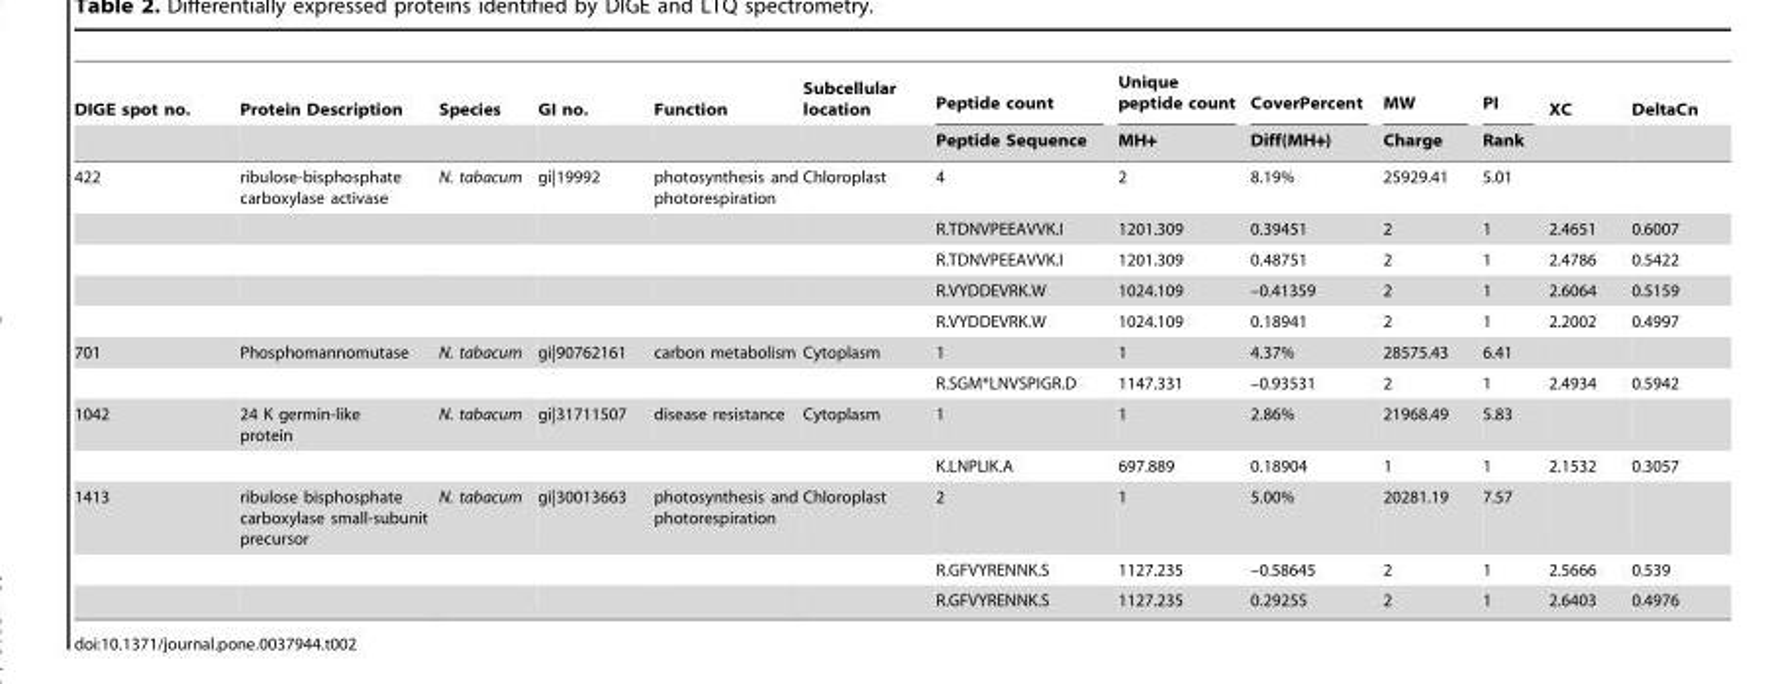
<table><thead><tr><td rowspan="2">DIGE spot no.</td><td rowspan="2">Protein Description</td><td rowspan="2">Species</td><td rowspan="2">GI no.</td><td rowspan="2">Function</td><td rowspan="2">Subcellular location</td><td rowspan="2">Peptide count Peptide Sequence</td><td rowspan="2">Unique peptide count MH+</td><td rowspan="2">CoverPercent Diff(MH+)</td><td rowspan="2">MW Charge</td><td rowspan="2">PI Rank</td><td rowspan="2">XC</td><td rowspan="2">DeltaCn</td></tr><tr></tr></thead><tbody><tr><td rowspan="5">422</td><td>ribulose-bisphosphate carboxylase activase</td><td>N. tabacum</td><td>gi|19992</td><td>photosynthesis and photorespiration</td><td>Chloroplast</td><td>4</td><td>2</td><td>8.19%</td><td>25929.41</td><td>5.01</td><td></td><td></td></tr><tr><td></td><td></td><td></td><td></td><td></td><td>R.TDNVPEEAVVK.I</td><td>1201.309</td><td>0.39451</td><td>2</td><td>1</td><td>2.4651</td><td>0.6007</td></tr><tr><td></td><td></td><td></td><td></td><td></td><td>R.TDNVPEEAVVK.I</td><td>1201.309</td><td>0.48751</td><td>2</td><td>1</td><td>2.4786</td><td>0.5422</td></tr><tr><td></td><td></td><td></td><td></td><td></td><td>R.VYDDEVRK.W</td><td>1024.109</td><td>–0.41359</td><td>2</td><td>1</td><td>2.6064</td><td>0.5159</td></tr><tr><td></td><td></td><td></td><td></td><td></td><td>R.VYDDEVRK.W</td><td>1024.109</td><td>0.18941</td><td>2</td><td>1</td><td>2.2002</td><td>0.4997</td></tr><tr><td rowspan="2">701</td><td>Phosphomannomutase</td><td>N. tabacum</td><td>gi|90762161</td><td>carbon metabolism</td><td>Cytoplasm</td><td>1</td><td>1</td><td>4.37%</td><td>28575.43</td><td>6.41</td><td></td><td></td></tr><tr><td></td><td></td><td></td><td></td><td></td><td>R.SGM*LNVSPIGR.D</td><td>1147.331</td><td>–0.93531</td><td>2</td><td>1</td><td>2.4934</td><td>0.5942</td></tr><tr><td rowspan="2">1042</td><td>24 K germin-like protein</td><td>N. tabacum</td><td>gi|31711507</td><td>disease resistance</td><td>Cytoplasm</td><td>1</td><td>1</td><td>2.86%</td><td>21968.49</td><td>5.83</td><td></td><td></td></tr><tr><td></td><td></td><td></td><td></td><td></td><td>K.LNPLIK.A</td><td>697.889</td><td>0.18904</td><td>1</td><td>1</td><td>2.1532</td><td>0.3057</td></tr><tr><td rowspan="3">1413</td><td>ribulose bisphosphate carboxylase small-subunit precursor</td><td>N. tabacum</td><td>gi|30013663</td><td>photosynthesis and photorespiration</td><td>Chloroplast</td><td>2</td><td>1</td><td>5.00%</td><td>20281.19</td><td>7.57</td><td></td><td></td></tr><tr><td></td><td></td><td></td><td></td><td></td><td>R.GFVYRENNK.S</td><td>1127.235</td><td>–0.58645</td><td>2</td><td>1</td><td>2.5666</td><td>0.539</td></tr><tr><td></td><td></td><td></td><td></td><td></td><td>R.GFVYRENNK.S</td><td>1127.235</td><td>0.29255</td><td>2</td><td>1</td><td>2.6403</td><td>0.4976</td></tr></tbody></table>